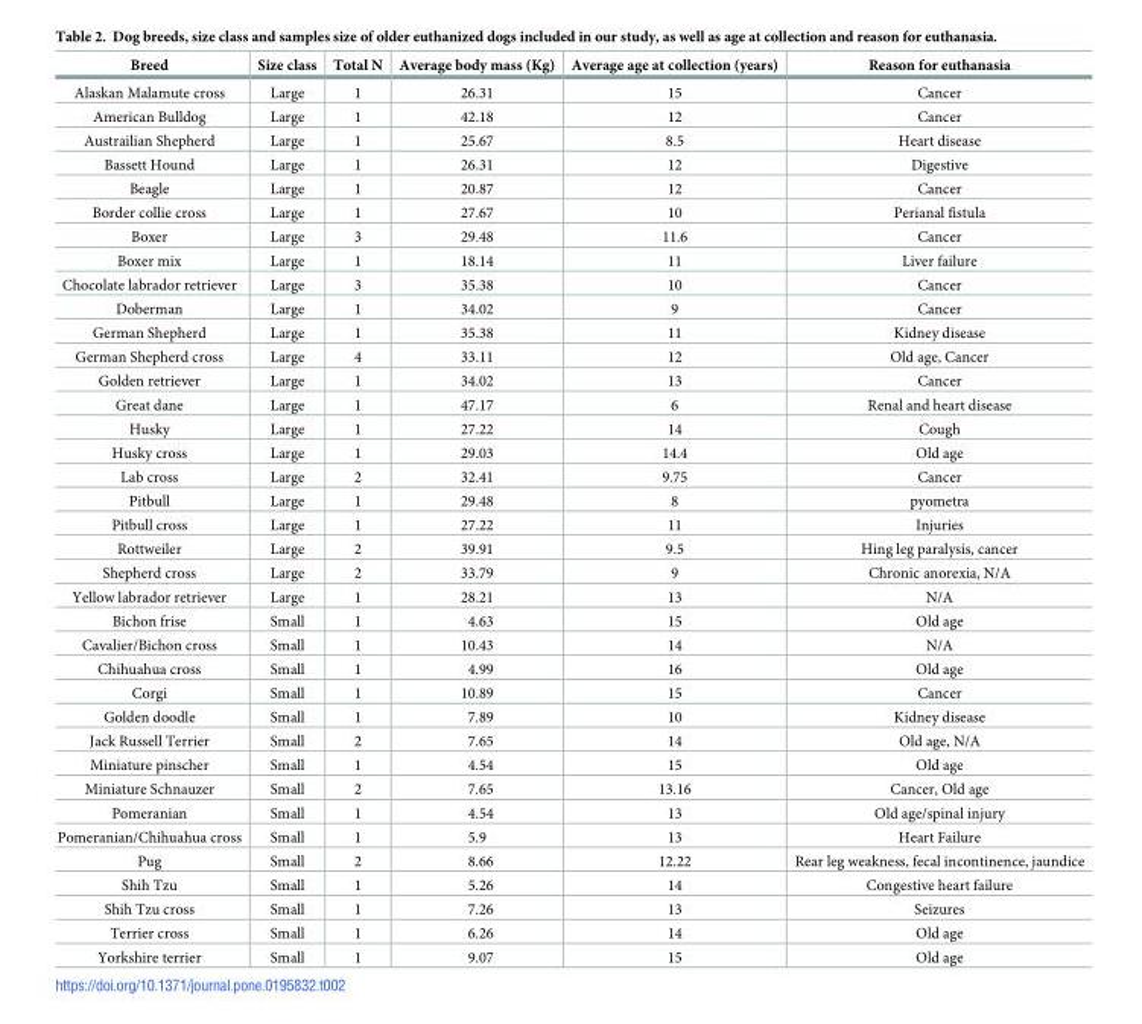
<table><thead><tr><td>Breed</td><td>Size class</td><td>Total N</td><td>Average body mass (Kg)</td><td>Average age at collection (years)</td><td>Reason for euthanasia</td></tr></thead><tbody><tr><td>Alaskan Malamute cross</td><td>Large</td><td>1</td><td>26.31</td><td>15</td><td>Cancer</td></tr><tr><td>American Bulldog</td><td>Large</td><td>1</td><td>42.18</td><td>12</td><td>Cancer</td></tr><tr><td>Austrailian Shepherd</td><td>Large</td><td>1</td><td>25.67</td><td>8.5</td><td>Heart disease</td></tr><tr><td>Bassett Hound</td><td>Large</td><td>1</td><td>26.31</td><td>12</td><td>Digestive</td></tr><tr><td>Beagle</td><td>Large</td><td>1</td><td>20.87</td><td>12</td><td>Cancer</td></tr><tr><td>Border collie cross</td><td>Large</td><td>1</td><td>27.67</td><td>10</td><td>Perianal fistula</td></tr><tr><td>Boxer</td><td>Large</td><td>3</td><td>29.48</td><td>11.6</td><td>Cancer</td></tr><tr><td>Boxer mix</td><td>Large</td><td>1</td><td>18.14</td><td>11</td><td>Liver failure</td></tr><tr><td>Chocolate labrador retriever</td><td>Large</td><td>3</td><td>35.38</td><td>10</td><td>Cancer</td></tr><tr><td>Doberman</td><td>Large</td><td>1</td><td>34.02</td><td>9</td><td>Cancer</td></tr><tr><td>German Shepherd</td><td>Large</td><td>1</td><td>35.38</td><td>11</td><td>Kidney disease</td></tr><tr><td>German Shepherd cross</td><td>Large</td><td>4</td><td>33.11</td><td>12</td><td>Old age, Cancer</td></tr><tr><td>Golden retriever</td><td>Large</td><td>1</td><td>34.02</td><td>13</td><td>Cancer</td></tr><tr><td>Great dane</td><td>Large</td><td>1</td><td>47.17</td><td>6</td><td>Renal and heart disease</td></tr><tr><td>Husky</td><td>Large</td><td>1</td><td>27.22</td><td>14</td><td>Cough</td></tr><tr><td>Husky cross</td><td>Large</td><td>1</td><td>29.03</td><td>14.4</td><td>Old age</td></tr><tr><td>Lab cross</td><td>Large</td><td>2</td><td>32.41</td><td>9.75</td><td>Cancer</td></tr><tr><td>Pitbull</td><td>Large</td><td>1</td><td>29.48</td><td>8</td><td>pyometra</td></tr><tr><td>Pitbull cross</td><td>Large</td><td>1</td><td>27.22</td><td>11</td><td>Injuries</td></tr><tr><td>Rottweiler</td><td>Large</td><td>2</td><td>39.91</td><td>9.5</td><td>Hing leg paralysis, cancer</td></tr><tr><td>Shepherd cross</td><td>Large</td><td>2</td><td>33.79</td><td>9</td><td>Chronic anorexia, N/A</td></tr><tr><td>Yellow labrador retriever</td><td>Large</td><td>1</td><td>28.21</td><td>13</td><td>N/A</td></tr><tr><td>Bichon frise</td><td>Small</td><td>1</td><td>4.63</td><td>15</td><td>Old age</td></tr><tr><td>Cavalier/Bichon cross</td><td>Small</td><td>1</td><td>10.43</td><td>14</td><td>N/A</td></tr><tr><td>Chihuahua cross</td><td>Small</td><td>1</td><td>4.99</td><td>16</td><td>Old age</td></tr><tr><td>Corgi</td><td>Small</td><td>1</td><td>10.89</td><td>15</td><td>Cancer</td></tr><tr><td>Golden doodle</td><td>Small</td><td>1</td><td>7.89</td><td>10</td><td>Kidney disease</td></tr><tr><td>Jack Russell Terrier</td><td>Small</td><td>2</td><td>7.65</td><td>14</td><td>Old age, N/A</td></tr><tr><td>Miniature pinscher</td><td>Small</td><td>1</td><td>4.54</td><td>15</td><td>Old age</td></tr><tr><td>Miniature Schnauzer</td><td>Small</td><td>2</td><td>7.65</td><td>13.16</td><td>Cancer, Old age</td></tr><tr><td>Pomeranian</td><td>Small</td><td>1</td><td>4.54</td><td>13</td><td>Old age/spinal injury</td></tr><tr><td>Pomeranian/Chihuahua cross</td><td>Small</td><td>1</td><td>5.9</td><td>13</td><td>Heart Failure</td></tr><tr><td>Pug</td><td>Small</td><td>2</td><td>8.66</td><td>12.22</td><td>Rear leg weakness, fecal incontinence, jaundice</td></tr><tr><td>Shih Tzu</td><td>Small</td><td>1</td><td>5.26</td><td>14</td><td>Congestive heart failure</td></tr><tr><td>Shih Tzu cross</td><td>Small</td><td>1</td><td>7.26</td><td>13</td><td>Seizures</td></tr><tr><td>Terrier cross</td><td>Small</td><td>1</td><td>6.26</td><td>14</td><td>Old age</td></tr><tr><td>Yorkshire terrier</td><td>Small</td><td>1</td><td>9.07</td><td>15</td><td>Old age</td></tr></tbody></table>